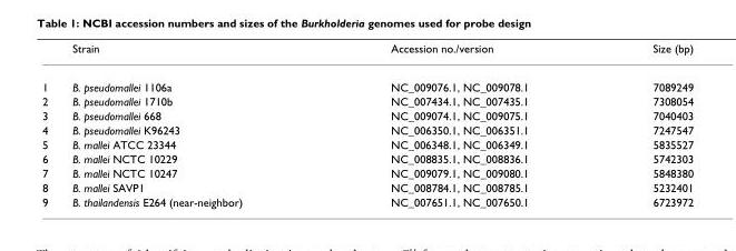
<table><thead><tr><td></td><td>Strain</td><td>Accession no./version</td><td>Size (bp)</td></tr></thead><tbody><tr><td>1</td><td>B. pseudomallei 1106a</td><td>NC_009076.1, NC_009078.1</td><td>7089249</td></tr><tr><td>2</td><td>B. pseudomallei 1710b</td><td>NC_007434.1, NC_007435.1</td><td>7308054</td></tr><tr><td>3</td><td>B. pseudomallei 668</td><td>NC_009074.1, NC_009075.1</td><td>7040403</td></tr><tr><td>4</td><td>B. pseudomallei K96243</td><td>NC_006350.1, NC_006351.1</td><td>7247547</td></tr><tr><td>5</td><td>B. mallei ATCC 23344</td><td>NC_006348.1, NC_006349.1</td><td>5835527</td></tr><tr><td>6</td><td>B. mallei NCTC 10229</td><td>NC_008835.1, NC_008836.1</td><td>5742303</td></tr><tr><td>7</td><td>B. mallei NCTC 10247</td><td>NC_009079.1, NC_009080.1</td><td>5848380</td></tr><tr><td>8</td><td>B. mallei SAVP1</td><td>NC_008784.1, NC_008785.1</td><td>5232401</td></tr><tr><td>9</td><td>B. thailandensis E264 (near-neighbor)</td><td>NC_007651.1, NC_007650.1</td><td>6723972</td></tr></tbody></table>